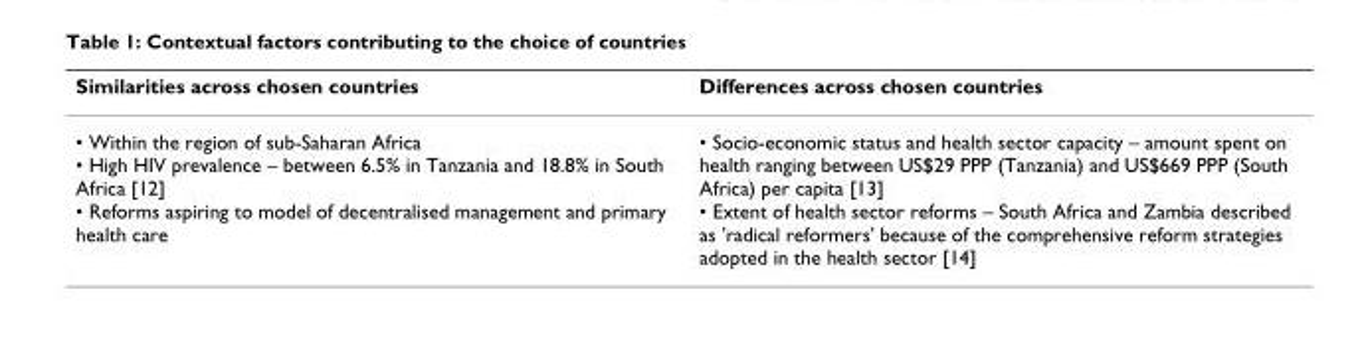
<table><thead><tr><td>Similarities across chosen countries</td><td>Differences across chosen countries</td></tr></thead><tbody><tr><td>• Within the region of sub-Saharan Africa • High HIV prevalence – between 6.5% in Tanzania and 18.8% in South Africa [12] • Reforms aspiring to model of decentralised management and primary health care</td><td>• Socio-economic status and health sector capacity – amount spent on health ranging between US$29 PPP (Tanzania) and US$669 PPP (South Africa) per capita [13] • Extent of health sector reforms – South Africa and Zambia described as &#x27;radical reformers&#x27; because of the comprehensive reform strategies adopted in the health sector [14]</td></tr></tbody></table>